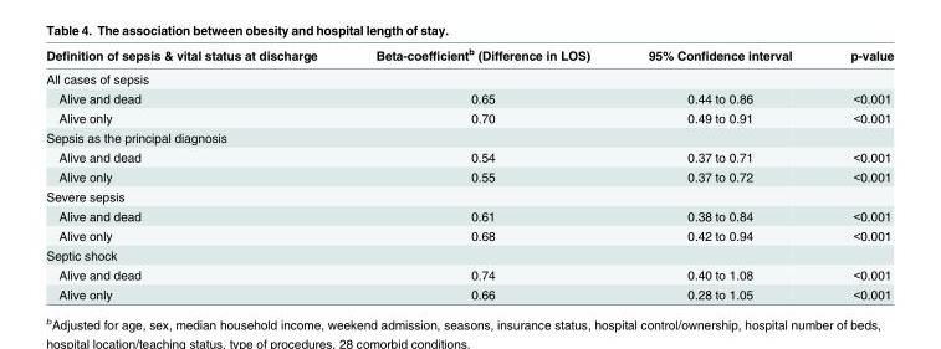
<table><thead><tr><td>Definition of sepsis &amp; vital status at discharge</td><td>Beta-coefficient<sup>b</sup> (Difference in LOS)</td><td>95% Confidence interval</td><td>p-value</td></tr></thead><tbody><tr><td colspan="4">All cases of sepsis</td></tr><tr><td>Alive and dead</td><td>0.65</td><td>0.44 to 0.86</td><td>&lt;0.001</td></tr><tr><td>Alive only</td><td>0.70</td><td>0.49 to 0.91</td><td>&lt;0.001</td></tr><tr><td colspan="4">Sepsis as the principal diagnosis</td></tr><tr><td>Alive and dead</td><td>0.54</td><td>0.37 to 0.71</td><td>&lt;0.001</td></tr><tr><td>Alive only</td><td>0.55</td><td>0.37 to 0.72</td><td>&lt;0.001</td></tr><tr><td colspan="4">Severe sepsis</td></tr><tr><td>Alive and dead</td><td>0.61</td><td>0.38 to 0.84</td><td>&lt;0.001</td></tr><tr><td>Alive only</td><td>0.68</td><td>0.42 to 0.94</td><td>&lt;0.001</td></tr><tr><td colspan="4">Septic shock</td></tr><tr><td>Alive and dead</td><td>0.74</td><td>0.40 to 1.08</td><td>&lt;0.001</td></tr><tr><td>Alive only</td><td>0.66</td><td>0.28 to 1.05</td><td>&lt;0.001</td></tr></tbody></table>